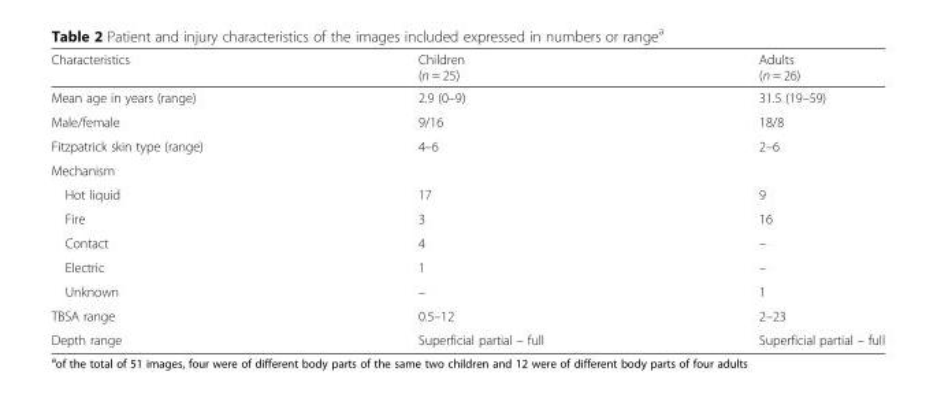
<table><thead><tr><td>Characteristics</td><td>Children (n = 25)</td><td>Adults (n = 26)</td></tr></thead><tbody><tr><td>Mean age in years (range)</td><td>2.9 (0–9)</td><td>31.5 (19–59)</td></tr><tr><td>Male/female</td><td>9/16</td><td>18/8</td></tr><tr><td>Fitzpatrick skin type (range)</td><td>4–6</td><td>2–6</td></tr><tr><td colspan="3">Mechanism</td></tr><tr><td>Hot liquid</td><td>17</td><td>9</td></tr><tr><td>Fire</td><td>3</td><td>16</td></tr><tr><td>Contact</td><td>4</td><td>–</td></tr><tr><td>Electric</td><td>1</td><td>–</td></tr><tr><td>Unknown</td><td>–</td><td>1</td></tr><tr><td>TBSA range</td><td>0.5–12</td><td>2–23</td></tr><tr><td>Depth range</td><td>Superficial partial – full</td><td>Superficial partial – full</td></tr></tbody></table>